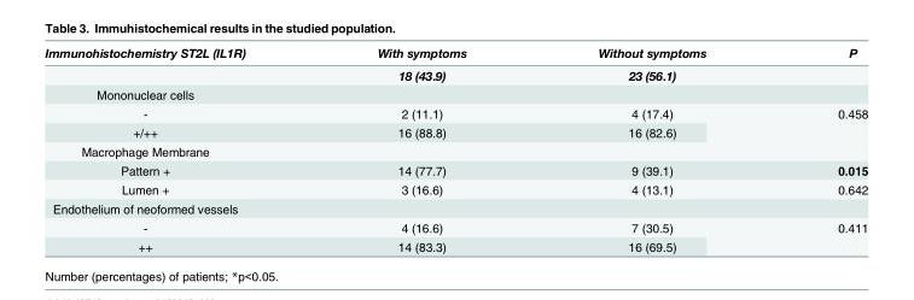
<table><thead><tr><td>Immunohistochemistry ST2L (IL1R)</td><td>With symptoms</td><td>Without symptoms</td><td>P</td></tr></thead><tbody><tr><td></td><td>18 (43.9)</td><td>23 (56.1)</td><td></td></tr><tr><td colspan="4">Mononuclear cells</td></tr><tr><td>-</td><td>2 (11.1)</td><td>4 (17.4)</td><td rowspan="2">0.458</td></tr><tr><td>+/++</td><td>16 (88.8)</td><td>16 (82.6)</td></tr><tr><td colspan="4">Macrophage Membrane</td></tr><tr><td>Pattern +</td><td>14 (77.7)</td><td>9 (39.1)</td><td>0.015</td></tr><tr><td>Lumen +</td><td>3 (16.6)</td><td>4 (13.1)</td><td>0.642</td></tr><tr><td colspan="4">Endothelium of neoformed vessels</td></tr><tr><td>-</td><td>4 (16.6)</td><td>7 (30.5)</td><td rowspan="2">0.411</td></tr><tr><td>++</td><td>14 (83.3)</td><td>16 (69.5)</td></tr></tbody></table>